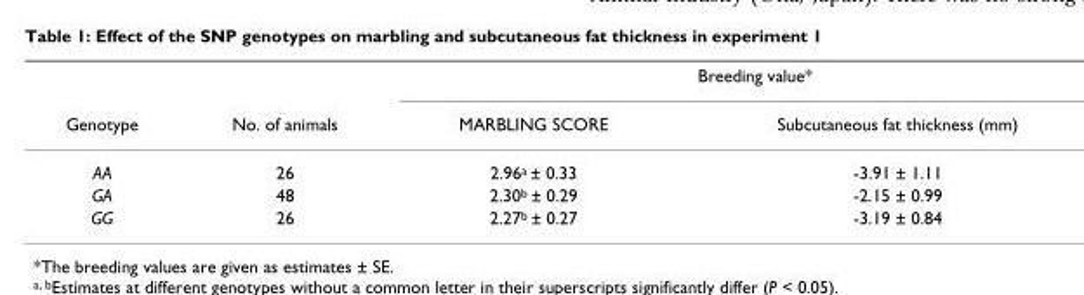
<table><thead><tr><td rowspan="2">Genotype</td><td rowspan="2">No. of animals</td><td colspan="2">Breeding value*</td></tr><tr><td>MARBLING SCORE</td><td>Subcutaneous fat thickness (mm)</td></tr></thead><tbody><tr><td>AA</td><td>26</td><td>2.96<sup>a</sup> ± 0.33</td><td>-3.91 ± 1.11</td></tr><tr><td>GA</td><td>48</td><td>2.30<sup>b</sup> ± 0.29</td><td>-2.15 ± 0.99</td></tr><tr><td>GG</td><td>26</td><td>2.27<sup>b</sup> ± 0.27</td><td>-3.19 ± 0.84</td></tr></tbody></table>